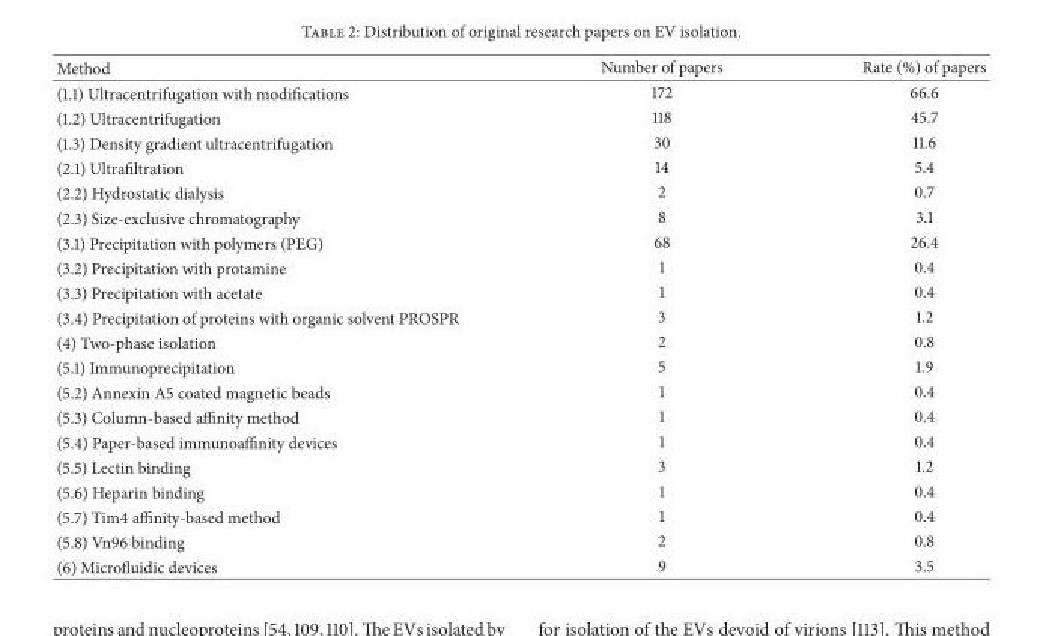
<table><thead><tr><td>Method</td><td>Number of papers</td><td>Rate (%) of papers</td></tr></thead><tbody><tr><td>(1.1) Ultracentrifugation with modifications</td><td>172</td><td>66.6</td></tr><tr><td>(1.2) Ultracentrifugation</td><td>118</td><td>45.7</td></tr><tr><td>(1.3) Density gradient ultracentrifugation</td><td>30</td><td>11.6</td></tr><tr><td>(2.1) Ultrafiltration</td><td>14</td><td>5.4</td></tr><tr><td>(2.2) Hydrostatic dialysis</td><td>2</td><td>0.7</td></tr><tr><td>(2.3) Size-exclusive chromatography</td><td>8</td><td>3.1</td></tr><tr><td>(3.1) Precipitation with polymers (PEG)</td><td>68</td><td>26.4</td></tr><tr><td>(3.2) Precipitation with protamine</td><td>1</td><td>0.4</td></tr><tr><td>(3.3) Precipitation with acetate</td><td>1</td><td>0.4</td></tr><tr><td>(3.4) Precipitation of proteins with organic solvent PROSPR</td><td>3</td><td>1.2</td></tr><tr><td>(4) Two-phase isolation</td><td>2</td><td>0.8</td></tr><tr><td>(5.1) Immunoprecipitation</td><td>5</td><td>1.9</td></tr><tr><td>(5.2) Annexin A5 coated magnetic beads</td><td>1</td><td>0.4</td></tr><tr><td>(5.3) Column-based affinity method</td><td>1</td><td>0.4</td></tr><tr><td>(5.4) Paper-based immunoaffinity devices</td><td>1</td><td>0.4</td></tr><tr><td>(5.5) Lectin binding</td><td>3</td><td>1.2</td></tr><tr><td>(5.6) Heparin binding</td><td>1</td><td>0.4</td></tr><tr><td>(5.7) Tim4 affinity-based method</td><td>1</td><td>0.4</td></tr><tr><td>(5.8) Vn96 binding</td><td>2</td><td>0.8</td></tr><tr><td>(6) Microfluidic devices</td><td>9</td><td>3.5</td></tr></tbody></table>